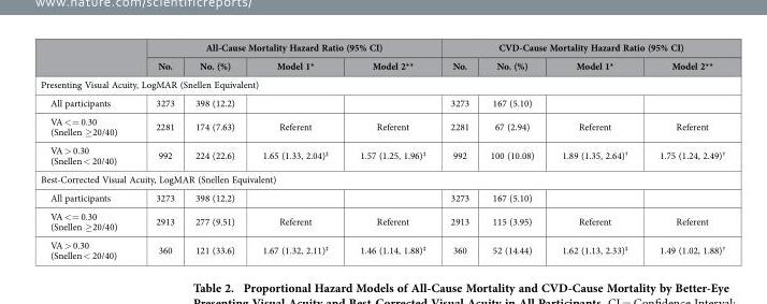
<table><thead><tr><td rowspan="2"></td><td colspan="4">All-Cause Mortality Hazard Ratio (95% CI)</td><td colspan="4">CVD-Cause Mortality Hazard Ratio (95% CI)</td></tr><tr><td>No.</td><td>No. (%)</td><td>Model 1*</td><td>Model 2**</td><td>No.</td><td>No. (%)</td><td>Model 1*</td><td>Model 2**</td></tr></thead><tbody><tr><td colspan="9">Presenting Visual Acuity, LogMAR (Snellen Equivalent)</td></tr><tr><td>All participants</td><td>3273</td><td>398 (12.2)</td><td></td><td></td><td>3273</td><td>167 (5.10)</td><td></td><td></td></tr><tr><td>VA &lt; = 0.30 (Snellen ≥ 20/40)</td><td>2281</td><td>174 (7.63)</td><td>Referent</td><td>Referent</td><td>2281</td><td>67 (2.94)</td><td>Referent</td><td>Referent</td></tr><tr><td>VA &gt; 0.30 (Snellen &lt; 20/40)</td><td>992</td><td>224 (22.6)</td><td>1.65 (1.33, 2.04)‡</td><td>1.57 (1.25, 1.96)‡</td><td>992</td><td>100 (10.08)</td><td>1.89 (1.35, 2.64)†</td><td>1.75 (1.24, 2.49)†</td></tr><tr><td colspan="9">Best-Corrected Visual Acuity, LogMAR (Snellen Equivalent)</td></tr><tr><td>All participants</td><td>3273</td><td>398 (12.2)</td><td></td><td></td><td>3273</td><td>167 (5.10)</td><td></td><td></td></tr><tr><td>VA &lt; = 0.30 (Snellen ≥ 20/40)</td><td>2913</td><td>277 (9.51)</td><td>Referent</td><td>Referent</td><td>2913</td><td>115 (3.95)</td><td>Referent</td><td>Referent</td></tr><tr><td>VA &gt; 0.30 (Snellen &lt; 20/40)</td><td>360</td><td>121 (33.6)</td><td>1.67 (1.32, 2.11)‡</td><td>1.46 (1.14, 1.88)‡</td><td>360</td><td>52 (14.44)</td><td>1.62 (1.13, 2.33)‡</td><td>1.49 (1.02, 1.88)†</td></tr></tbody></table>